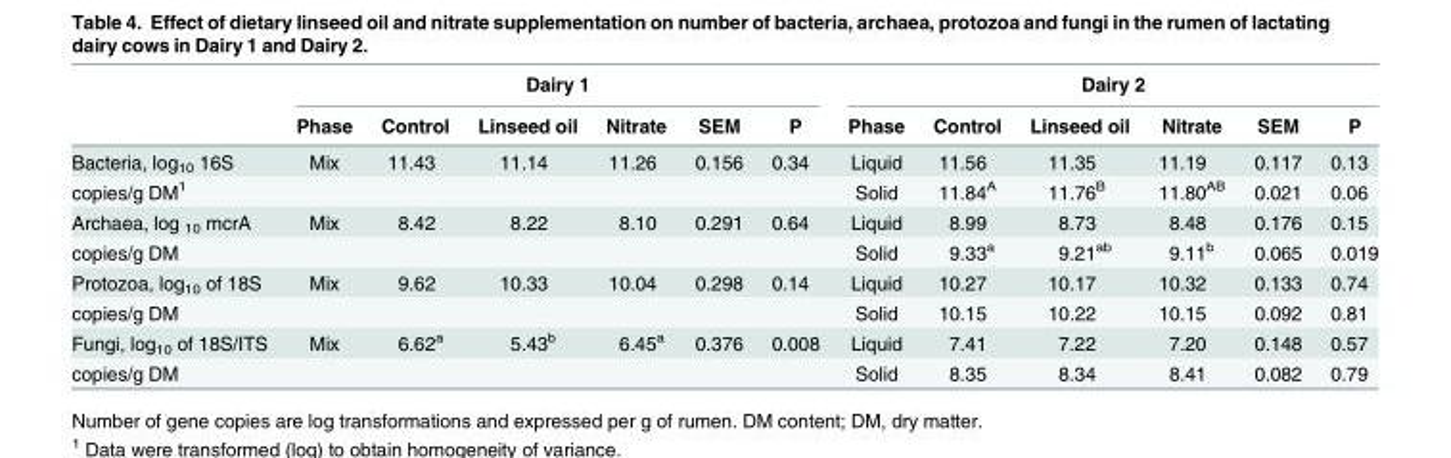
<table><thead><tr><td rowspan="2"></td><td colspan="6">Dairy 1</td><td colspan="6">Dairy 2</td></tr><tr><td>Phase</td><td>Control</td><td>Linseed oil</td><td>Nitrate</td><td>SEM</td><td>P</td><td>Phase</td><td>Control</td><td>Linseed oil</td><td>Nitrate</td><td>SEM</td><td>P</td></tr></thead><tbody><tr><td>Bacteria, log<sub>10</sub> 16S</td><td>Mix</td><td>11.43</td><td>11.14</td><td>11.26</td><td>0.156</td><td>0.34</td><td>Liquid</td><td>11.56</td><td>11.35</td><td>11.19</td><td>0.117</td><td>0.13</td></tr><tr><td>copies/g DM<sup>1</sup></td><td></td><td></td><td></td><td></td><td></td><td></td><td>Solid</td><td>11.84<sup>A</sup></td><td>11.76<sup>B</sup></td><td>11.80<sup>AB</sup></td><td>0.021</td><td>0.06</td></tr><tr><td>Archaea, log <sub>10</sub> mcrA</td><td>Mix</td><td>8.42</td><td>8.22</td><td>8.10</td><td>0.291</td><td>0.64</td><td>Liquid</td><td>8.99</td><td>8.73</td><td>8.48</td><td>0.176</td><td>0.15</td></tr><tr><td>copies/g DM</td><td></td><td></td><td></td><td></td><td></td><td></td><td>Solid</td><td>9.33<sup>a</sup></td><td>9.21<sup>ab</sup></td><td>9.11<sup>b</sup></td><td>0.065</td><td>0.019</td></tr><tr><td>Protozoa, log<sub>10</sub> of 18S</td><td>Mix</td><td>9.62</td><td>10.33</td><td>10.04</td><td>0.298</td><td>0.14</td><td>Liquid</td><td>10.27</td><td>10.17</td><td>10.32</td><td>0.133</td><td>0.74</td></tr><tr><td>copies/g DM</td><td></td><td></td><td></td><td></td><td></td><td></td><td>Solid</td><td>10.15</td><td>10.22</td><td>10.15</td><td>0.092</td><td>0.81</td></tr><tr><td>Fungi, log<sub>10</sub> of 18S/ITS</td><td>Mix</td><td>6.62<sup>a</sup></td><td>5.43<sup>b</sup></td><td>6.45<sup>a</sup></td><td>0.376</td><td>0.008</td><td>Liquid</td><td>7.41</td><td>7.22</td><td>7.20</td><td>0.148</td><td>0.57</td></tr><tr><td>copies/g DM</td><td></td><td></td><td></td><td></td><td></td><td></td><td>Solid</td><td>8.35</td><td>8.34</td><td>8.41</td><td>0.082</td><td>0.79</td></tr></tbody></table>